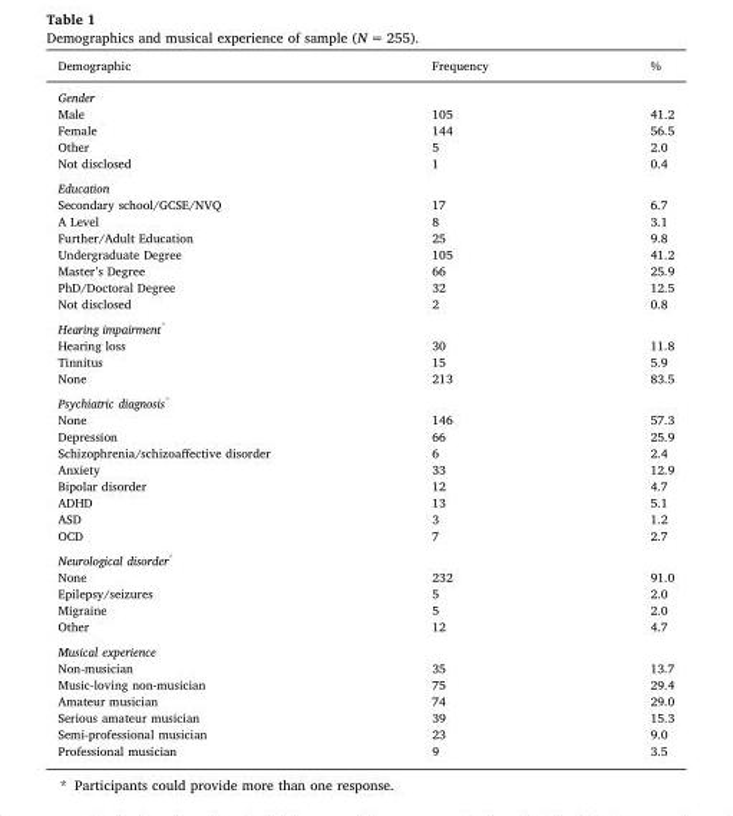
<table><thead><tr><td>Demographic</td><td>Frequency</td><td>%</td></tr></thead><tbody><tr><td colspan="3">Gender</td></tr><tr><td>Male</td><td>105</td><td>41.2</td></tr><tr><td>Female</td><td>144</td><td>56.5</td></tr><tr><td>Other</td><td>5</td><td>2.0</td></tr><tr><td>Not disclosed</td><td>1</td><td>0.4</td></tr><tr><td colspan="3">Education</td></tr><tr><td>Secondary school/GCSE/NVQ</td><td>17</td><td>6.7</td></tr><tr><td>A Level</td><td>8</td><td>3.1</td></tr><tr><td>Further/Adult Education</td><td>25</td><td>9.8</td></tr><tr><td>Undergraduate Degree</td><td>105</td><td>41.2</td></tr><tr><td>Master’s Degree</td><td>66</td><td>25.9</td></tr><tr><td>PhD/Doctoral Degree</td><td>32</td><td>12.5</td></tr><tr><td>Not disclosed</td><td>2</td><td>0.8</td></tr><tr><td colspan="3">Hearing impairment*</td></tr><tr><td>Hearing loss</td><td>30</td><td>11.8</td></tr><tr><td>Tinnitus</td><td>15</td><td>5.9</td></tr><tr><td>None</td><td>213</td><td>83.5</td></tr><tr><td colspan="3">Psychiatric diagnosis*</td></tr><tr><td>None</td><td>146</td><td>57.3</td></tr><tr><td>Depression</td><td>66</td><td>25.9</td></tr><tr><td>Schizophrenia/schizoaffective disorder</td><td>6</td><td>2.4</td></tr><tr><td>Anxiety</td><td>33</td><td>12.9</td></tr><tr><td>Bipolar disorder</td><td>12</td><td>4.7</td></tr><tr><td>ADHD</td><td>13</td><td>5.1</td></tr><tr><td>ASD</td><td>3</td><td>1.2</td></tr><tr><td>OCD</td><td>7</td><td>2.7</td></tr><tr><td colspan="3">Neurological disorder*</td></tr><tr><td>None</td><td>232</td><td>91.0</td></tr><tr><td>Epilepsy/seizures</td><td>5</td><td>2.0</td></tr><tr><td>Migraine</td><td>5</td><td>2.0</td></tr><tr><td>Other</td><td>12</td><td>4.7</td></tr><tr><td colspan="3">Musical experience</td></tr><tr><td>Non-musician</td><td>35</td><td>13.7</td></tr><tr><td>Music-loving non-musician</td><td>75</td><td>29.4</td></tr><tr><td>Amateur musician</td><td>74</td><td>29.0</td></tr><tr><td>Serious amateur musician</td><td>39</td><td>15.3</td></tr><tr><td>Semi-professional musician</td><td>23</td><td>9.0</td></tr><tr><td>Professional musician</td><td>9</td><td>3.5</td></tr></tbody></table>